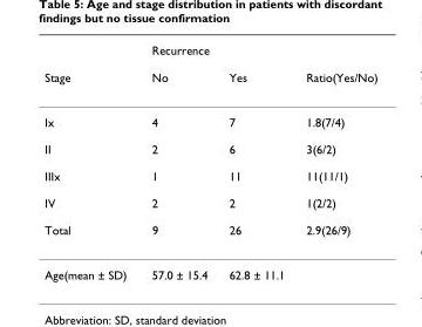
<table><thead><tr><td rowspan="2">Stage</td><td colspan="2">Recurrence</td><td rowspan="2">Ratio(Yes/No)</td></tr><tr><td>No</td><td>Yes</td></tr></thead><tbody><tr><td>Ix</td><td>4</td><td>7</td><td>1.8(7/4)</td></tr><tr><td>II</td><td>2</td><td>6</td><td>3(6/2)</td></tr><tr><td>IIIx</td><td>1</td><td>11</td><td>11(11/1)</td></tr><tr><td>IV</td><td>2</td><td>2</td><td>1(2/2)</td></tr><tr><td>Total</td><td>9</td><td>26</td><td>2.9(26/9)</td></tr><tr><td>Age(mean ± SD)</td><td>57.0 ± 15.4</td><td>62.8 ± 11.1</td><td></td></tr></tbody></table>